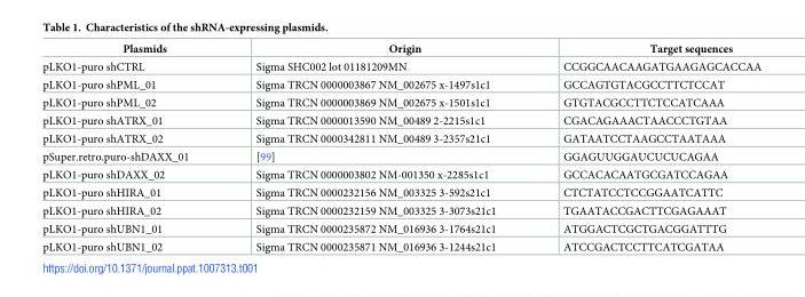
<table><thead><tr><td>Plasmids</td><td>Origin</td><td>Target sequences</td></tr></thead><tbody><tr><td>pLKO1-puro shCTRL</td><td>Sigma SHC002 lot 01181209MN</td><td>CCGGCAACAAGATGAAGAGCACCAA</td></tr><tr><td>pLKO1-puro shPML_01</td><td>Sigma TRCN 0000003867 NM_002675 x-1497s1c1</td><td>GCCAGTGTACGCCTTCTCCAT</td></tr><tr><td>pLKO1-puro shPML_02</td><td>Sigma TRCN 0000003869 NM_002675 x-1501s1c1</td><td>GTGTACGCCTTCTCCATCAAA</td></tr><tr><td>pLKO1-puro shATRX_01</td><td>Sigma TRCN 0000013590 NM_00489 2-2215s1c1</td><td>CGACAGAAACTAACCCTGTAA</td></tr><tr><td>pLKO1-puro shATRX_02</td><td>Sigma TRCN 0000342811 NM_00489 3-2357s21c1</td><td>GATAATCCTAAGCCTAATAAA</td></tr><tr><td>pSuper.retro.puro-shDAXX_01</td><td>[99]</td><td>GGAGUUGGAUCUCUCAGAA</td></tr><tr><td>pLKO1-puro shDAXX_02</td><td>Sigma TRCN 0000003802 NM-001350 x-2285s1c1</td><td>GCCACACAATGCGATCCAGAA</td></tr><tr><td>pLKO1-puro shHIRA_01</td><td>Sigma TRCN 0000232156 NM_003325 3-592s21c1</td><td>CTCTATCCTCCGGAATCATTC</td></tr><tr><td>pLKO1-puro shHIRA_02</td><td>Sigma TRCN 0000232159 NM_003325 3-3073s21c1</td><td>TGAATACCGACTTCGAGAAAT</td></tr><tr><td>pLKO1-puro shUBN1_01</td><td>Sigma TRCN 0000235872 NM_016936 3-1764s21c1</td><td>ATGGACTCGCTGACGGATTTG</td></tr><tr><td>pLKO1-puro shUBN1_02</td><td>Sigma TRCN 0000235871 NM_016936 3-1244s21c1</td><td>ATCCGACTCCTTCATCGATAA</td></tr></tbody></table>